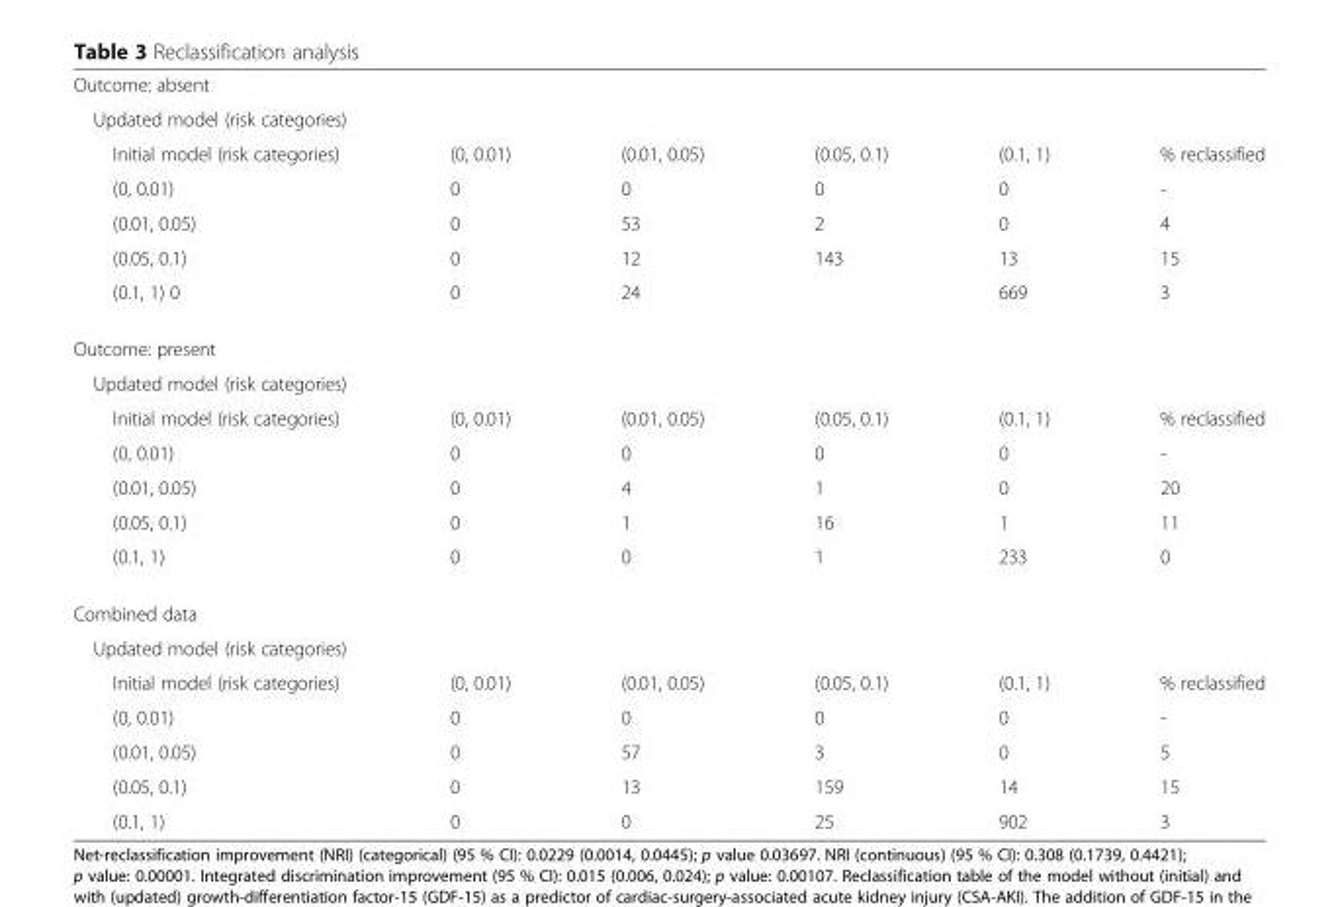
<table><tbody><tr><td colspan="6">Outcome: absent</td></tr><tr><td colspan="6">Updated model (risk categories)</td></tr><tr><td>Initial model (risk categories)</td><td>(0, 0.01)</td><td>(0.01, 0.05)</td><td>(0.05, 0.1)</td><td>(0.1, 1)</td><td>% reclassified</td></tr><tr><td>(0, 0.01)</td><td>0</td><td>0</td><td>0</td><td>0</td><td>-</td></tr><tr><td>(0.01, 0.05)</td><td>0</td><td>53</td><td>2</td><td>0</td><td>4</td></tr><tr><td>(0.05, 0.1)</td><td>0</td><td>12</td><td>143</td><td>13</td><td>15</td></tr><tr><td>(0.1, 1) 0</td><td>0</td><td>24</td><td></td><td>669</td><td>3</td></tr><tr><td colspan="6">Outcome: present</td></tr><tr><td colspan="6">Updated model (risk categories)</td></tr><tr><td>Initial model (risk categories)</td><td>(0, 0.01)</td><td>(0.01, 0.05)</td><td>(0.05, 0.1)</td><td>(0.1, 1)</td><td>% reclassified</td></tr><tr><td>(0, 0.01)</td><td>0</td><td>0</td><td>0</td><td>0</td><td>-</td></tr><tr><td>(0.01, 0.05)</td><td>0</td><td>4</td><td>1</td><td>0</td><td>20</td></tr><tr><td>(0.05, 0.1)</td><td>0</td><td>1</td><td>16</td><td>1</td><td>11</td></tr><tr><td>(0.1, 1)</td><td>0</td><td>0</td><td>1</td><td>233</td><td>0</td></tr><tr><td colspan="6">Combined data</td></tr><tr><td colspan="6">Updated model (risk categories)</td></tr><tr><td>Initial model (risk categories)</td><td>(0, 0.01)</td><td>(0.01, 0.05)</td><td>(0.05, 0.1)</td><td>(0.1, 1)</td><td>% reclassified</td></tr><tr><td>(0, 0.01)</td><td>0</td><td>0</td><td>0</td><td>0</td><td>-</td></tr><tr><td>(0.01, 0.05)</td><td>0</td><td>57</td><td>3</td><td>0</td><td>5</td></tr><tr><td>(0.05, 0.1)</td><td>0</td><td>13</td><td>159</td><td>14</td><td>15</td></tr><tr><td>(0.1, 1)</td><td>0</td><td>0</td><td>25</td><td>902</td><td>3</td></tr></tbody></table>